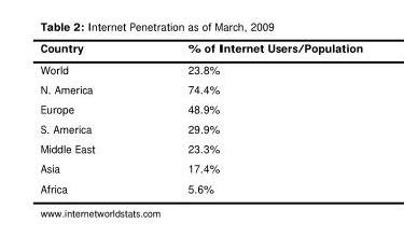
<table><thead><tr><td>Country</td><td>% of Internet Users/Population</td></tr></thead><tbody><tr><td>World</td><td>23.8%</td></tr><tr><td>N. America</td><td>74.4%</td></tr><tr><td>Europe</td><td>48.9%</td></tr><tr><td>S. America</td><td>29.9%</td></tr><tr><td>Middle East</td><td>23.3%</td></tr><tr><td>Asia</td><td>17.4%</td></tr><tr><td>Africa</td><td>5.6%</td></tr></tbody></table>